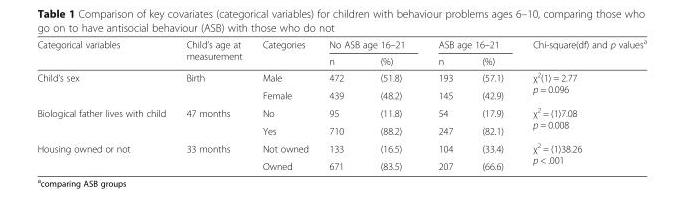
<table><thead><tr><td rowspan="2">Categorical variables</td><td rowspan="2">Child’s age at measurement</td><td rowspan="2">Categories</td><td colspan="2">No ASB age 16–21</td><td colspan="2">ASB age 16–21</td><td rowspan="2">Chi-square(df) and p values<sup>a</sup></td></tr><tr><td>n</td><td>(%)</td><td>n</td><td>(%)</td></tr></thead><tbody><tr><td rowspan="2">Child’s sex</td><td>Birth</td><td>Male</td><td>472</td><td>(51.8)</td><td>193</td><td>(57.1)</td><td rowspan="2">χ<sup>2</sup>(1) = 2.77 p = 0.096</td></tr><tr><td></td><td>Female</td><td>439</td><td>(48.2)</td><td>145</td><td>(42.9)</td></tr><tr><td rowspan="2">Biological father lives with child</td><td>47 months</td><td>No</td><td>95</td><td>(11.8)</td><td>54</td><td>(17.9)</td><td rowspan="2">χ<sup>2</sup> = (1)7.08 p = 0.008</td></tr><tr><td></td><td>Yes</td><td>710</td><td>(88.2)</td><td>247</td><td>(82.1)</td></tr><tr><td rowspan="2">Housing owned or not</td><td>33 months</td><td>Not owned</td><td>133</td><td>(16.5)</td><td>104</td><td>(33.4)</td><td rowspan="2">χ<sup>2</sup> = (1)38.26 p &lt; .001</td></tr><tr><td></td><td>Owned</td><td>671</td><td>(83.5)</td><td>207</td><td>(66.6)</td></tr></tbody></table>